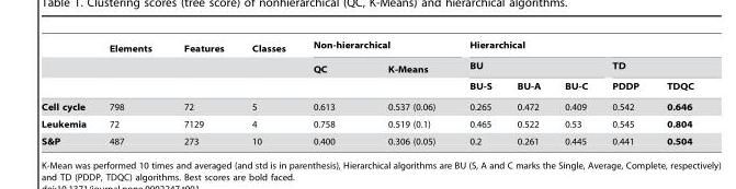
<table><thead><tr><td rowspan="3"></td><td rowspan="3">Elements</td><td rowspan="3">Features</td><td rowspan="3">Classes</td><td colspan="2">Non-hierarchical</td><td colspan="5">Hierarchical</td></tr><tr><td rowspan="2">QC</td><td rowspan="2">K-Means</td><td colspan="3">BU</td><td colspan="2">TD</td></tr><tr><td>BU-S</td><td>BU-A</td><td>BU-C</td><td>PDDP</td><td>TDQC</td></tr></thead><tbody><tr><td>Cell cycle</td><td>798</td><td>72</td><td>5</td><td>0.613</td><td>0.537 (0.06)</td><td>0.265</td><td>0.472</td><td>0.409</td><td>0.542</td><td>0.646</td></tr><tr><td>Leukemia</td><td>72</td><td>7129</td><td>4</td><td>0.758</td><td>0.519 (0.1)</td><td>0.465</td><td>0.522</td><td>0.53</td><td>0.545</td><td>0.804</td></tr><tr><td>S&amp;P</td><td>487</td><td>273</td><td>10</td><td>0.400</td><td>0.306 (0.05)</td><td>0.2</td><td>0.261</td><td>0.445</td><td>0.441</td><td>0.504</td></tr></tbody></table>